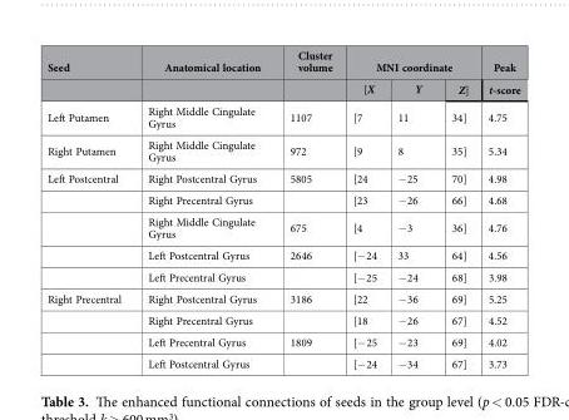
<table><thead><tr><td rowspan="2">Seed</td><td rowspan="2">Anatomical location</td><td rowspan="2">Cluster volume</td><td colspan="3">MNI coordinate</td><td rowspan="2">Peak t-score</td></tr><tr><td>[X</td><td>Y</td><td>Z]</td></tr></thead><tbody><tr><td>Left Putamen</td><td>Right Middle Cingulate Gyrus</td><td>1107</td><td>[7</td><td>11</td><td>34]</td><td>4.75</td></tr><tr><td>Right Putamen</td><td>Right Middle Cingulate Gyrus</td><td>972</td><td>[9</td><td>8</td><td>35]</td><td>5.34</td></tr><tr><td rowspan="5">Left Postcentral</td><td>Right Postcentral Gyrus</td><td>5805</td><td>[24</td><td>− 25</td><td>70]</td><td>4.98</td></tr><tr><td>Right Precentral Gyrus</td><td></td><td>[23</td><td>− 26</td><td>66]</td><td>4.68</td></tr><tr><td>Right Middle Cingulate Gyrus</td><td>675</td><td>[4</td><td>− 3</td><td>36]</td><td>4.76</td></tr><tr><td>Left Postcentral Gyrus</td><td>2646</td><td>[− 24</td><td>33</td><td>64]</td><td>4.56</td></tr><tr><td>Left Precentral Gyrus</td><td></td><td>[− 25</td><td>− 24</td><td>68]</td><td>3.98</td></tr><tr><td rowspan="4">Right Precentral</td><td>Right Postcentral Gyrus</td><td>3186</td><td>[22</td><td>− 36</td><td>69]</td><td>5.25</td></tr><tr><td>Right Precentral Gyrus</td><td></td><td>[18</td><td>− 26</td><td>67]</td><td>4.52</td></tr><tr><td>Left Precentral Gyrus</td><td>1809</td><td>[− 25</td><td>− 23</td><td>69]</td><td>4.02</td></tr><tr><td>Left Postcentral Gyrus</td><td></td><td>[− 24</td><td>− 34</td><td>67]</td><td>3.73</td></tr></tbody></table>